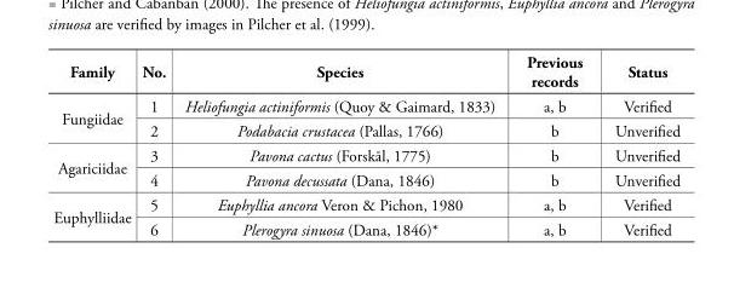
<table><thead><tr><td>Family</td><td>No.</td><td>Species</td><td>Previous records</td><td>Status</td></tr></thead><tbody><tr><td rowspan="2">Fungiidae</td><td>1</td><td>Heliofungia actiniformis (Quoy &amp; Gaimard, 1833)</td><td>a, b</td><td>Verified</td></tr><tr><td>2</td><td>Podabacia crustacea (Pallas, 1766)</td><td>b</td><td>Unverified</td></tr><tr><td rowspan="2">Agariciidae</td><td>3</td><td>Pavona cactus (Forskål, 1775)</td><td>b</td><td>Unverified</td></tr><tr><td>4</td><td>Pavona decussata (Dana, 1846)</td><td>b</td><td>Unverified</td></tr><tr><td rowspan="2">Euphylliidae</td><td>5</td><td>Euphyllia ancora Veron &amp; Pichon, 1980</td><td>a, b</td><td>Verified</td></tr><tr><td>6</td><td>Plerogyra sinuosa (Dana, 1846)*</td><td>a, b</td><td>Verified</td></tr></tbody></table>